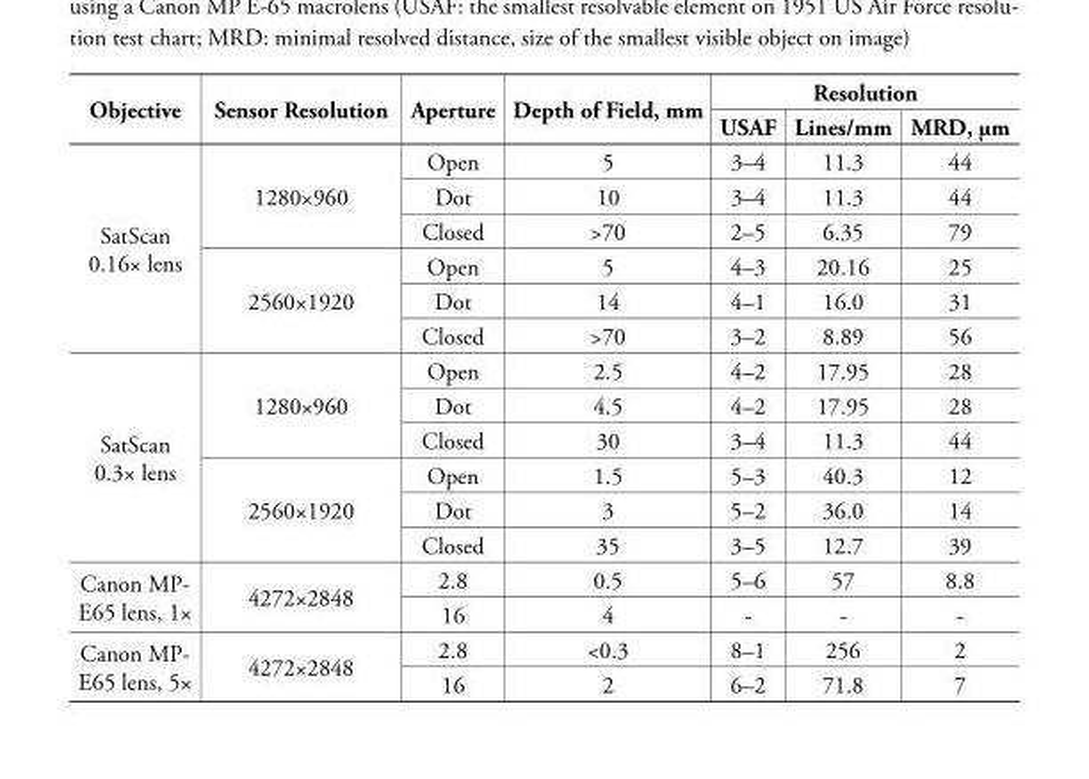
<table><thead><tr><td rowspan="2">Objective</td><td rowspan="2">Sensor Resolution</td><td rowspan="2">Aperture</td><td rowspan="2">Depth of Field, mm</td><td colspan="3">Resolution</td></tr><tr><td>USAF</td><td>Lines/mm</td><td>MRD, μm</td></tr></thead><tbody><tr><td rowspan="6">SatScan 0.16× lens</td><td rowspan="3">1280×960</td><td>Open</td><td>5</td><td>3–4</td><td>11.3</td><td>44</td></tr><tr><td>Dot</td><td>10</td><td>3–4</td><td>11.3</td><td>44</td></tr><tr><td>Closed</td><td>&gt;70</td><td>2–5</td><td>6.35</td><td>79</td></tr><tr><td rowspan="3">2560×1920</td><td>Open</td><td>5</td><td>4–3</td><td>20.16</td><td>25</td></tr><tr><td>Dot</td><td>14</td><td>4–1</td><td>16.0</td><td>31</td></tr><tr><td>Closed</td><td>&gt;70</td><td>3–2</td><td>8.89</td><td>56</td></tr><tr><td rowspan="6">SatScan 0.3× lens</td><td rowspan="3">1280×960</td><td>Open</td><td>2.5</td><td>4–2</td><td>17.95</td><td>28</td></tr><tr><td>Dot</td><td>4.5</td><td>4–2</td><td>17.95</td><td>28</td></tr><tr><td>Closed</td><td>30</td><td>3–4</td><td>11.3</td><td>44</td></tr><tr><td rowspan="3">2560×1920</td><td>Open</td><td>1.5</td><td>5–3</td><td>40.3</td><td>12</td></tr><tr><td>Dot</td><td>3</td><td>5–2</td><td>36.0</td><td>14</td></tr><tr><td>Closed</td><td>35</td><td>3–5</td><td>12.7</td><td>39</td></tr><tr><td rowspan="2">Canon MP- E65 lens, 1×</td><td rowspan="2">4272×2848</td><td>2.8</td><td>0.5</td><td>5–6</td><td>57</td><td>8.8</td></tr><tr><td>16</td><td>4</td><td>-</td><td>-</td><td>-</td></tr><tr><td rowspan="2">Canon MP- E65 lens, 5×</td><td rowspan="2">4272×2848</td><td>2.8</td><td>&lt;0.3</td><td>8–1</td><td>256</td><td>2</td></tr><tr><td>16</td><td>2</td><td>6–2</td><td>71.8</td><td>7</td></tr></tbody></table>